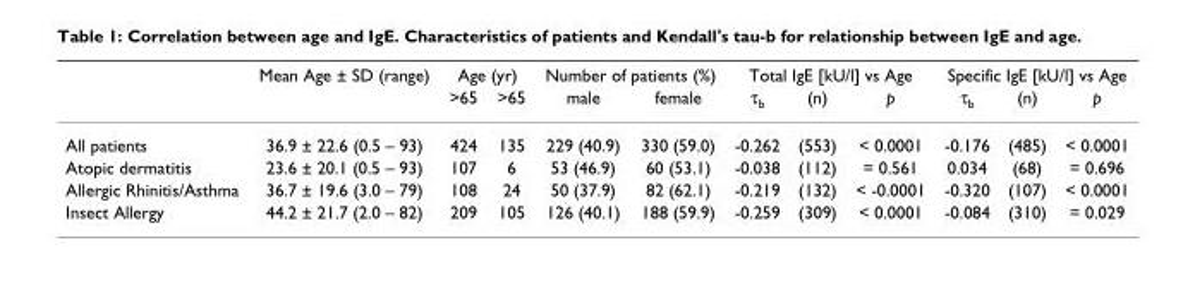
<table><thead><tr><td rowspan="2"></td><td rowspan="2">Mean Age ± SD (range)</td><td colspan="2">Age (yr)</td><td colspan="2">Number of patients (%)</td><td colspan="3">Total IgE [kU/l] vs Age</td><td colspan="3">Specific IgE [kU/l] vs Age</td></tr><tr><td>&gt;65</td><td>&gt;65</td><td>male</td><td>female</td><td>τ<sub>b</sub></td><td>(n)</td><td>p</td><td>τ<sub>b</sub></td><td>(n)</td><td>p</td></tr></thead><tbody><tr><td>All patients</td><td>36.9 ± 22.6 (0.5 – 93)</td><td>424</td><td>135</td><td>229 (40.9)</td><td>330 (59.0)</td><td>-0.262</td><td>(553)</td><td>&lt; 0.0001</td><td>-0.176</td><td>(485)</td><td>&lt; 0.0001</td></tr><tr><td>Atopic dermatitis</td><td>23.6 ± 20.1 (0.5 – 93)</td><td>107</td><td>6</td><td>53 (46.9)</td><td>60 (53.1)</td><td>-0.038</td><td>(112)</td><td>= 0.561</td><td>0.034</td><td>(68)</td><td>= 0.696</td></tr><tr><td>Allergic Rhinitis/Asthma</td><td>36.7 ± 19.6 (3.0 – 79)</td><td>108</td><td>24</td><td>50 (37.9)</td><td>82 (62.1)</td><td>-0.219</td><td>(132)</td><td>&lt; -0.0001</td><td>-0.320</td><td>(107)</td><td>&lt; 0.0001</td></tr><tr><td>Insect Allergy</td><td>44.2 ± 21.7 (2.0 – 82)</td><td>209</td><td>105</td><td>126 (40.1)</td><td>188 (59.9)</td><td>-0.259</td><td>(309)</td><td>&lt; 0.0001</td><td>-0.084</td><td>(310)</td><td>= 0.029</td></tr></tbody></table>